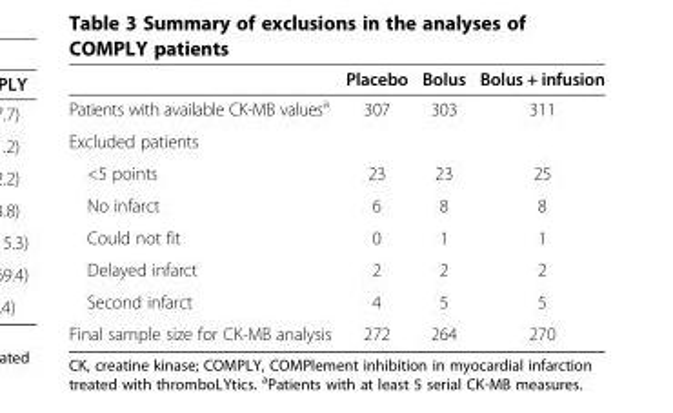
<table><thead><tr><td></td><td>Placebo</td><td>Bolus</td><td>Bolus + infusion</td></tr></thead><tbody><tr><td>Patients with available CK-MB values<sup>a</sup></td><td>307</td><td>303</td><td>311</td></tr><tr><td colspan="4">Excluded patients</td></tr><tr><td>&lt;5 points</td><td>23</td><td>23</td><td>25</td></tr><tr><td>No infarct</td><td>6</td><td>8</td><td>8</td></tr><tr><td>Could not fit</td><td>0</td><td>1</td><td>1</td></tr><tr><td>Delayed infarct</td><td>2</td><td>2</td><td>2</td></tr><tr><td>Second infarct</td><td>4</td><td>5</td><td>5</td></tr><tr><td>Final sample size for CK-MB analysis</td><td>272</td><td>264</td><td>270</td></tr></tbody></table>